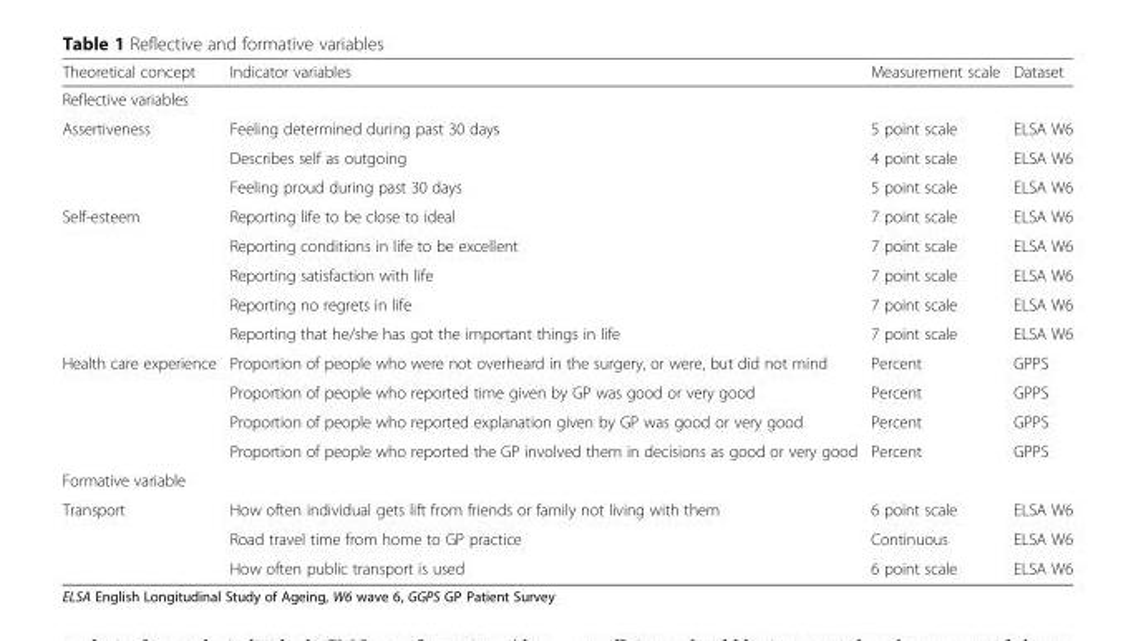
<table><thead><tr><td>Theoretical concept</td><td>Indicator variables</td><td>Measurement scale</td><td>Dataset</td></tr></thead><tbody><tr><td colspan="4">Reflective variables</td></tr><tr><td rowspan="3">Assertiveness</td><td>Feeling determined during past 30 days</td><td>5 point scale</td><td>ELSA W6</td></tr><tr><td>Describes self as outgoing</td><td>4 point scale</td><td>ELSA W6</td></tr><tr><td>Feeling proud during past 30 days</td><td>5 point scale</td><td>ELSA W6</td></tr><tr><td rowspan="5">Self-esteem</td><td>Reporting life to be close to ideal</td><td>7 point scale</td><td>ELSA W6</td></tr><tr><td>Reporting conditions in life to be excellent</td><td>7 point scale</td><td>ELSA W6</td></tr><tr><td>Reporting satisfaction with life</td><td>7 point scale</td><td>ELSA W6</td></tr><tr><td>Reporting no regrets in life</td><td>7 point scale</td><td>ELSA W6</td></tr><tr><td>Reporting that he/she has got the important things in life</td><td>7 point scale</td><td>ELSA W6</td></tr><tr><td rowspan="4">Health care experience</td><td>Proportion of people who were not overheard in the surgery, or were, but did not mind</td><td>Percent</td><td>GPPS</td></tr><tr><td>Proportion of people who reported time given by GP was good or very good</td><td>Percent</td><td>GPPS</td></tr><tr><td>Proportion of people who reported explanation given by GP was good or very good</td><td>Percent</td><td>GPPS</td></tr><tr><td>Proportion of people who reported the GP involved them in decisions as good or very good</td><td>Percent</td><td>GPPS</td></tr><tr><td colspan="4">Formative variable</td></tr><tr><td rowspan="3">Transport</td><td>How often individual gets lift from friends or family not living with them</td><td>6 point scale</td><td>ELSA W6</td></tr><tr><td>Road travel time from home to GP practice</td><td>Continuous</td><td>ELSA W6</td></tr><tr><td>How often public transport is used</td><td>6 point scale</td><td>ELSA W6</td></tr></tbody></table>